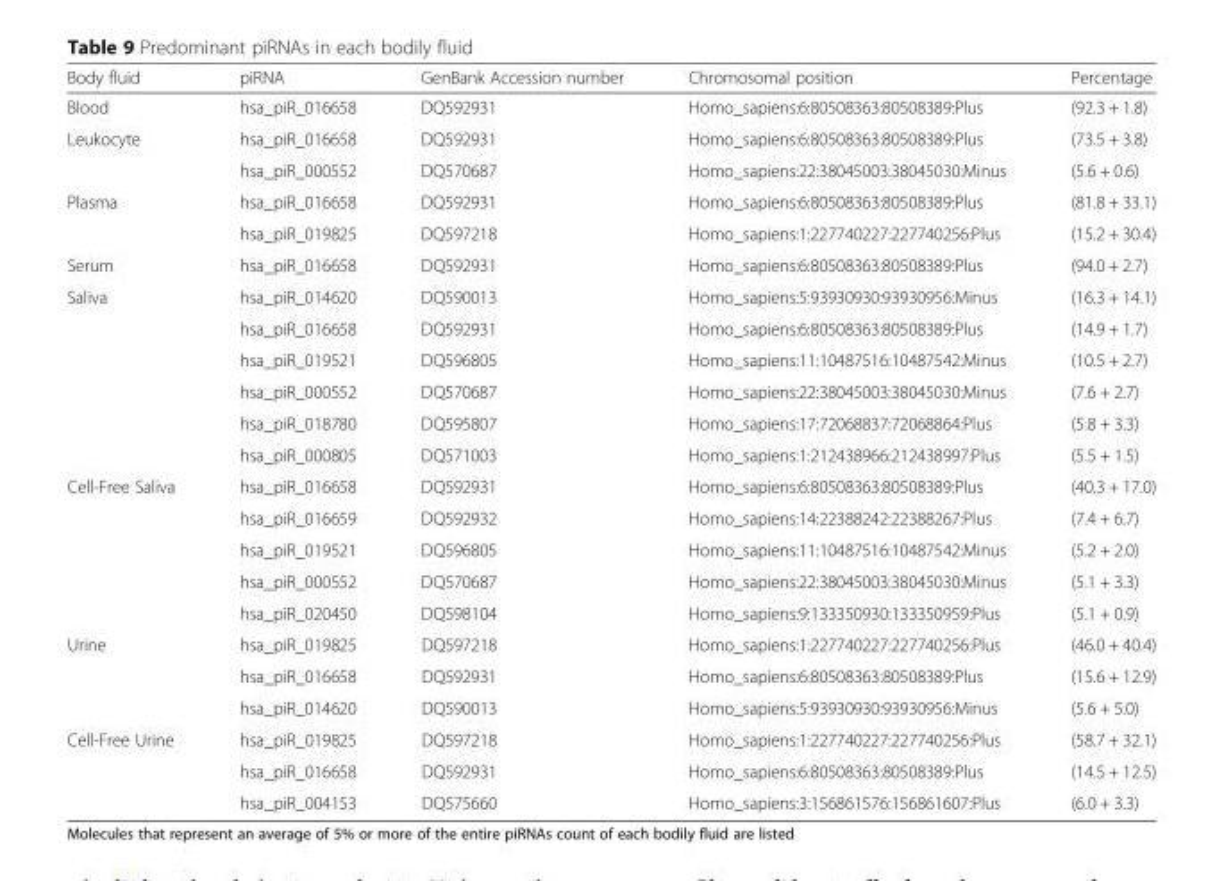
<table><thead><tr><td>Body fluid</td><td>piRNA</td><td>GenBank Accession number</td><td>Chromosomal position</td><td>Percentage</td></tr></thead><tbody><tr><td>Blood</td><td>hsa_piR_016658</td><td>DQ592931</td><td>Homo_sapiens:6:80508363:80508389:Plus</td><td>(92.3 + 1.8)</td></tr><tr><td rowspan="2">Leukocyte</td><td>hsa_piR_016658</td><td>DQ592931</td><td>Homo_sapiens:6:80508363:80508389:Plus</td><td>(73.5 + 3.8)</td></tr><tr><td>hsa_piR_000552</td><td>DQ570687</td><td>Homo_sapiens:22:38045003:38045030:Minus</td><td>(5.6 + 0.6)</td></tr><tr><td rowspan="2">Plasma</td><td>hsa_piR_016658</td><td>DQ592931</td><td>Homo_sapiens:6:80508363:80508389:Plus</td><td>(81.8 + 33.1)</td></tr><tr><td>hsa_piR_019825</td><td>DQ597218</td><td>Homo_sapiens:1:227740227:227740256:Plus</td><td>(15.2 + 30.4)</td></tr><tr><td>Serum</td><td>hsa_piR_016658</td><td>DQ592931</td><td>Homo_sapiens:6:80508363:80508389:Plus</td><td>(94.0 + 2.7)</td></tr><tr><td rowspan="6">Saliva</td><td>hsa_piR_014620</td><td>DQ590013</td><td>Homo_sapiens:5:93930930:93930956:Minus</td><td>(16.3 + 14.1)</td></tr><tr><td>hsa_piR_016658</td><td>DQ592931</td><td>Homo_sapiens:6:80508363:80508389:Plus</td><td>(14.9 + 1.7)</td></tr><tr><td>hsa_piR_019521</td><td>DQ596805</td><td>Homo_sapiens:11:10487516:10487542:Minus</td><td>(10.5 + 2.7)</td></tr><tr><td>hsa_piR_000552</td><td>DQ570687</td><td>Homo_sapiens:22:38045003:38045030:Minus</td><td>(7.6 + 2.7)</td></tr><tr><td>hsa_piR_018780</td><td>DQ595807</td><td>Homo_sapiens:17:72068837:72068864:Plus</td><td>(5.8 + 3.3)</td></tr><tr><td>hsa_piR_000805</td><td>DQ571003</td><td>Homo_sapiens:1:212438966:212438997:Plus</td><td>(5.5 + 1.5)</td></tr><tr><td rowspan="5">Cell-Free Saliva</td><td>hsa_piR_016658</td><td>DQ592931</td><td>Homo_sapiens:6:80508363:80508389:Plus</td><td>(40.3 + 17.0)</td></tr><tr><td>hsa_piR_016659</td><td>DQ592932</td><td>Homo_sapiens:14:22388242:22388267:Plus</td><td>(7.4 + 6.7)</td></tr><tr><td>hsa_piR_019521</td><td>DQ596805</td><td>Homo_sapiens:11:10487516:10487542:Minus</td><td>(5.2 + 2.0)</td></tr><tr><td>hsa_piR_000552</td><td>DQ570687</td><td>Homo_sapiens:22:38045003:38045030:Minus</td><td>(5.1 + 3.3)</td></tr><tr><td>hsa_piR_020450</td><td>DQ598104</td><td>Homo_sapiens:9:133350930:133350959:Plus</td><td>(5.1 + 0.9)</td></tr><tr><td rowspan="3">Urine</td><td>hsa_piR_019825</td><td>DQ597218</td><td>Homo_sapiens:1:227740227:227740256:Plus</td><td>(46.0 + 40.4)</td></tr><tr><td>hsa_piR_016658</td><td>DQ592931</td><td>Homo_sapiens:6:80508363:80508389:Plus</td><td>(15.6 + 12.9)</td></tr><tr><td>hsa_piR_014620</td><td>DQ590013</td><td>Homo_sapiens:5:93930930:93930956:Minus</td><td>(5.6 + 5.0)</td></tr><tr><td rowspan="3">Cell-Free Urine</td><td>hsa_piR_019825</td><td>DQ597218</td><td>Homo_sapiens:1:227740227:227740256:Plus</td><td>(58.7 + 32.1)</td></tr><tr><td>hsa_piR_016658</td><td>DQ592931</td><td>Homo_sapiens:6:80508363:80508389:Plus</td><td>(14.5 + 12.5)</td></tr><tr><td>hsa_piR_004153</td><td>DQ575660</td><td>Homo_sapiens:3:156861576:156861607:Plus</td><td>(6.0 + 3.3)</td></tr></tbody></table>